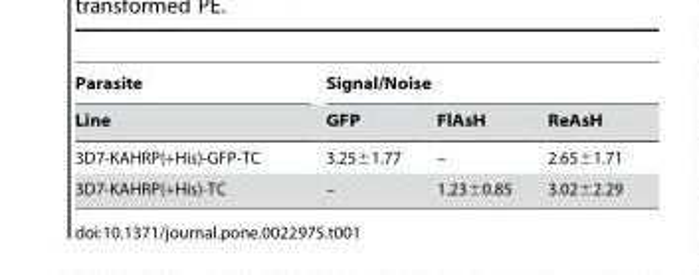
<table><thead><tr><td rowspan="2">Parasite Line</td><td colspan="3">Signal/Noise</td></tr><tr><td>GFP</td><td>FlAsH</td><td>ReAsH</td></tr></thead><tbody><tr><td>3D7-KAHRP(+His)-GFP-TC</td><td>3.25±1.77</td><td>–</td><td>2.65±1.71</td></tr><tr><td>3D7-KAHRP(+His)-TC</td><td>–</td><td>1.23±0.85</td><td>3.02±2.29</td></tr></tbody></table>